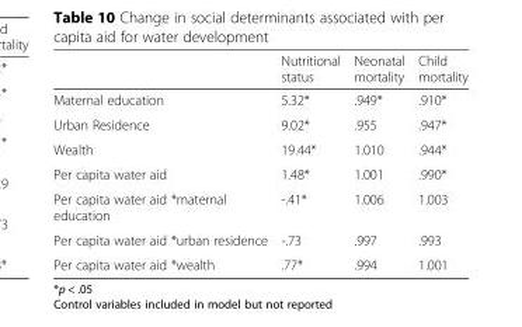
<table><thead><tr><td></td><td>Nutritional status</td><td>Neonatal mortality</td><td>Child mortality</td></tr></thead><tbody><tr><td>Maternal education</td><td>5.32*</td><td>.949*</td><td>.910*</td></tr><tr><td>Urban Residence</td><td>9.02*</td><td>.955</td><td>.947*</td></tr><tr><td>Wealth</td><td>19.44*</td><td>1.010</td><td>.944*</td></tr><tr><td>Per capita water aid</td><td>1.48*</td><td>1.001</td><td>.990*</td></tr><tr><td>Per capita water aid *maternal education</td><td>-.41*</td><td>1.006</td><td>1.003</td></tr><tr><td>Per capita water aid *urban residence</td><td>-.73</td><td>.997</td><td>.993</td></tr><tr><td>Per capita water aid *wealth</td><td>.77*</td><td>.994</td><td>1.001</td></tr></tbody></table>